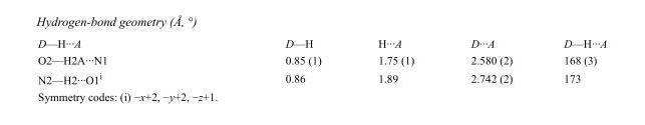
<table><tbody><tr><td>D—H···A</td><td>D—H</td><td>H···A</td><td>D···A</td><td>D—H···A</td></tr><tr><td>O2—H2A···N1</td><td>0.85 (1)</td><td>1.75 (1)</td><td>2.580 (2)</td><td>168 (3)</td></tr><tr><td>N2—H2···O1<sup>i</sup></td><td>0.86</td><td>1.89</td><td>2.742 (2)</td><td>173</td></tr></tbody></table>